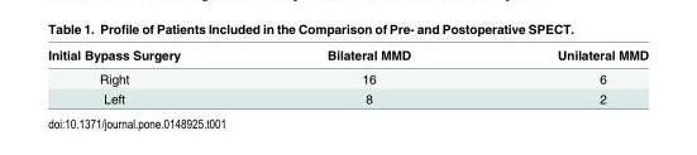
<table><thead><tr><td>Initial Bypass Surgery</td><td>Bilateral MMD</td><td>Unilateral MMD</td></tr></thead><tbody><tr><td>Right</td><td>16</td><td>6</td></tr><tr><td>Left</td><td>8</td><td>2</td></tr></tbody></table>